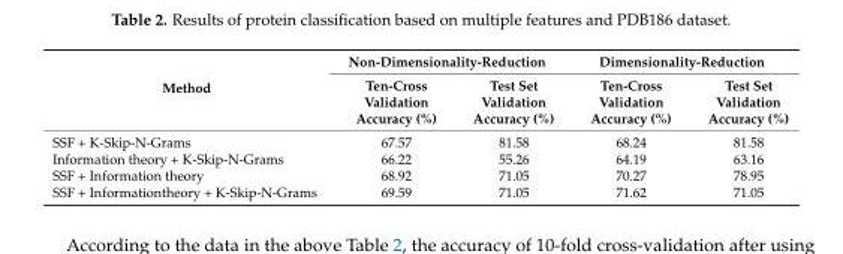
<table><thead><tr><td rowspan="2">Method</td><td colspan="2">Non-Dimensionality-Reduction</td><td colspan="2">Dimensionality-Reduction</td></tr><tr><td>Ten-Cross Validation Accuracy (%)</td><td>Test Set Validation Accuracy (%)</td><td>Ten-Cross Validation Accuracy (%)</td><td>Test Set Validation Accuracy (%)</td></tr></thead><tbody><tr><td>SSF + K-Skip-N-Grams</td><td>67.57</td><td>81.58</td><td>68.24</td><td>81.58</td></tr><tr><td>Information theory + K-Skip-N-Grams</td><td>66.22</td><td>55.26</td><td>64.19</td><td>63.16</td></tr><tr><td>SSF + Information theory</td><td>68.92</td><td>71.05</td><td>70.27</td><td>78.95</td></tr><tr><td>SSF + Informationtheory + K-Skip-N-Grams</td><td>69.59</td><td>71.05</td><td>71.62</td><td>71.05</td></tr></tbody></table>